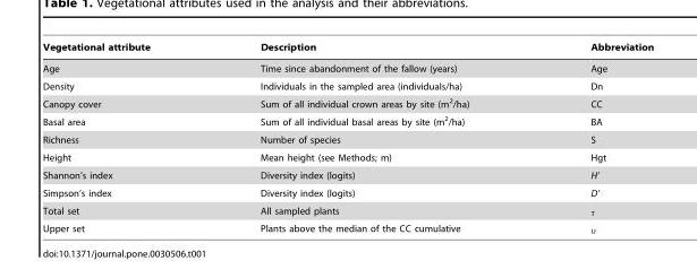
<table><thead><tr><td>Vegetational attribute</td><td>Description</td><td>Abbreviation</td></tr></thead><tbody><tr><td>Age</td><td>Time since abandonment of the fallow (years)</td><td>Age</td></tr><tr><td>Density</td><td>Individuals in the sampled area (individuals/ha)</td><td>Dn</td></tr><tr><td>Canopy cover</td><td>Sum of all individual crown areas by site (m<sup>2</sup>/ha)</td><td>CC</td></tr><tr><td>Basal area</td><td>Sum of all individual basal areas by site (m<sup>2</sup>/ha)</td><td>BA</td></tr><tr><td>Richness</td><td>Number of species</td><td>S</td></tr><tr><td>Height</td><td>Mean height (see Methods; m)</td><td>Hgt</td></tr><tr><td>Shannon’s index</td><td>Diversity index (logits)</td><td>H’</td></tr><tr><td>Simpson’s index</td><td>Diversity index (logits)</td><td>D’</td></tr><tr><td>Total set</td><td>All sampled plants</td><td><sub>T</sub></td></tr><tr><td>Upper set</td><td>Plants above the median of the CC cumulative</td><td><sub>U</sub></td></tr></tbody></table>